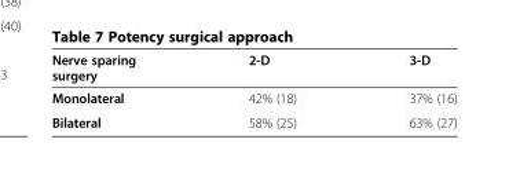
<table><thead><tr><td>Nerve sparing surgery</td><td>2-D</td><td>3-D</td></tr></thead><tbody><tr><td>Monolateral</td><td>42% (18)</td><td>37% (16)</td></tr><tr><td>Bilateral</td><td>58% (25)</td><td>63% (27)</td></tr></tbody></table>